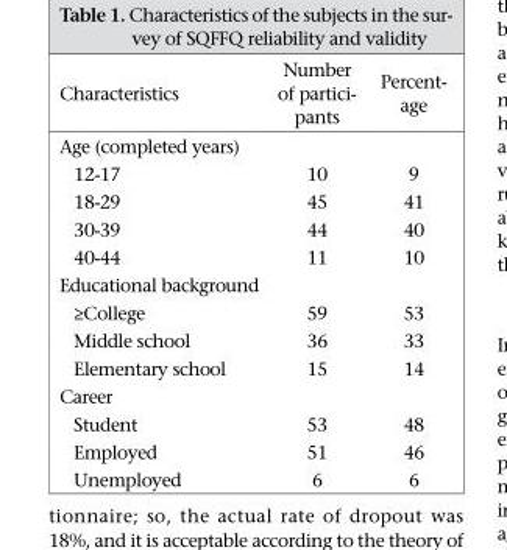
<table><thead><tr><td>Characteristics</td><td>Number of partici- pants</td><td>Percent- age</td></tr></thead><tbody><tr><td colspan="3">Age (completed years)</td></tr><tr><td>12-17</td><td>10</td><td>9</td></tr><tr><td>18-29</td><td>45</td><td>41</td></tr><tr><td>30-39</td><td>44</td><td>40</td></tr><tr><td>40-44</td><td>11</td><td>10</td></tr><tr><td colspan="3">Educational background</td></tr><tr><td>≥College</td><td>59</td><td>53</td></tr><tr><td>Middle school</td><td>36</td><td>33</td></tr><tr><td>Elementary school</td><td>15</td><td>14</td></tr><tr><td colspan="3">Career</td></tr><tr><td>Student</td><td>53</td><td>48</td></tr><tr><td>Employed</td><td>51</td><td>46</td></tr><tr><td>Unemployed</td><td>6</td><td>6</td></tr></tbody></table>